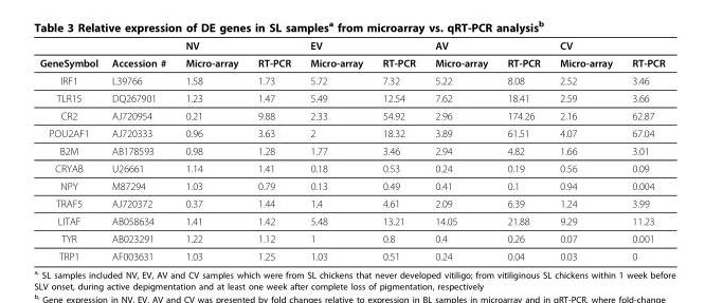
<table><thead><tr><td rowspan="2">GeneSymbol</td><td rowspan="2">Accession #</td><td colspan="2">NV</td><td colspan="2">EV</td><td colspan="2">AV</td><td colspan="2">CV</td></tr><tr><td>Micro-array</td><td>RT-PCR</td><td>Micro-array</td><td>RT-PCR</td><td>Micro-array</td><td>RT-PCR</td><td>Micro-array</td><td>RT-PCR</td></tr></thead><tbody><tr><td>IRF1</td><td>L39766</td><td>1.58</td><td>1.73</td><td>5.72</td><td>7.32</td><td>5.22</td><td>8.08</td><td>2.52</td><td>3.46</td></tr><tr><td>TLR15</td><td>DQ267901</td><td>1.23</td><td>1.47</td><td>5.49</td><td>12.54</td><td>7.62</td><td>18.41</td><td>2.59</td><td>3.66</td></tr><tr><td>CR2</td><td>AJ720954</td><td>0.21</td><td>9.88</td><td>2.33</td><td>54.92</td><td>2.96</td><td>174.26</td><td>2.16</td><td>62.87</td></tr><tr><td>POU2AF1</td><td>AJ720333</td><td>0.96</td><td>3.63</td><td>2</td><td>18.32</td><td>3.89</td><td>61.51</td><td>4.07</td><td>67.04</td></tr><tr><td>B2M</td><td>AB178593</td><td>0.98</td><td>1.28</td><td>1.77</td><td>3.46</td><td>2.94</td><td>4.82</td><td>1.66</td><td>3.01</td></tr><tr><td>CRYAB</td><td>U26661</td><td>1.14</td><td>1.41</td><td>0.18</td><td>0.53</td><td>0.24</td><td>0.19</td><td>0.56</td><td>0.09</td></tr><tr><td>NPY</td><td>M87294</td><td>1.03</td><td>0.79</td><td>0.13</td><td>0.49</td><td>0.41</td><td>0.1</td><td>0.94</td><td>0.004</td></tr><tr><td>TRAF5</td><td>AJ720372</td><td>0.37</td><td>1.44</td><td>1.4</td><td>4.61</td><td>2.09</td><td>6.39</td><td>1.24</td><td>3.99</td></tr><tr><td>LITAF</td><td>AB058634</td><td>1.41</td><td>1.42</td><td>5.48</td><td>13.21</td><td>14.05</td><td>21.88</td><td>9.29</td><td>11.23</td></tr><tr><td>TYR</td><td>AB023291</td><td>1.22</td><td>1.12</td><td>1</td><td>0.8</td><td>0.4</td><td>0.26</td><td>0.07</td><td>0.001</td></tr><tr><td>TRP1</td><td>AF003631</td><td>1.03</td><td>1.25</td><td>1.03</td><td>0.51</td><td>0.24</td><td>0.04</td><td>0.03</td><td>0</td></tr></tbody></table>